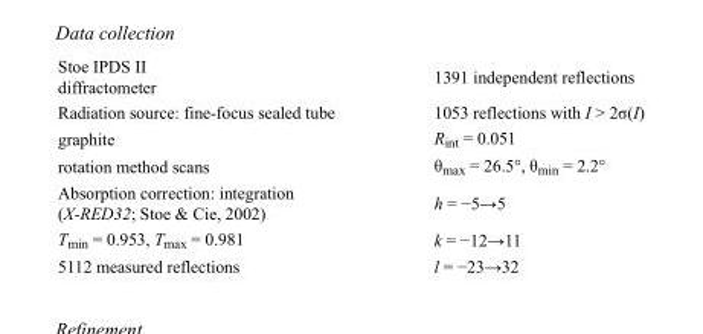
<table><tbody><tr><td>Stoe IPDS II diffractometer</td><td>1391 independent reflections</td></tr><tr><td>Radiation source: fine-focus sealed tube</td><td>1053 reflections with I &gt; 2σ(I)</td></tr><tr><td>graphite</td><td>R<sub>int</sub> = 0.051</td></tr><tr><td>rotation method scans</td><td>θ<sub>max</sub> = 26.5°, θ<sub>min</sub> = 2.2°</td></tr><tr><td>Absorption correction: integration (X-RED32; Stoe &amp; Cie, 2002)</td><td>h = −5→5</td></tr><tr><td>T<sub>min</sub> = 0.953, T<sub>max</sub> = 0.981</td><td>k = −12→11</td></tr><tr><td>5112 measured reflections</td><td>l = −23→32</td></tr></tbody></table>